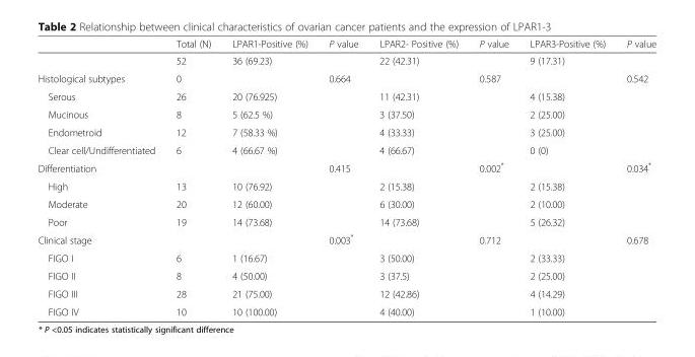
<table><thead><tr><td></td><td>Total (N)</td><td>LPAR1-Positive (%)</td><td>P value</td><td>LPAR2- Positive (%)</td><td>P value</td><td>LPAR3-Positive (%)</td><td>P value</td></tr></thead><tbody><tr><td></td><td>52</td><td>36 (69.23)</td><td></td><td>22 (42.31)</td><td></td><td>9 (17.31)</td><td></td></tr><tr><td>Histological subtypes</td><td>0</td><td></td><td>0.664</td><td></td><td>0.587</td><td></td><td>0.542</td></tr><tr><td>Serous</td><td>26</td><td>20 (76.925)</td><td></td><td>11 (42.31)</td><td></td><td>4 (15.38)</td><td></td></tr><tr><td>Mucinous</td><td>8</td><td>5 (62.5 %)</td><td></td><td>3 (37.50)</td><td></td><td>2 (25.00)</td><td></td></tr><tr><td>Endometroid</td><td>12</td><td>7 (58.33 %)</td><td></td><td>4 (33.33)</td><td></td><td>3 (25.00)</td><td></td></tr><tr><td>Clear cell/Undifferentiated</td><td>6</td><td>4 (66.67 %)</td><td></td><td>4 (66.67)</td><td></td><td>0 (0)</td><td></td></tr><tr><td>Differentiation</td><td></td><td></td><td>0.415</td><td></td><td>0.002*</td><td></td><td>0.034*</td></tr><tr><td>High</td><td>13</td><td>10 (76.92)</td><td></td><td>2 (15.38)</td><td></td><td>2 (15.38)</td><td></td></tr><tr><td>Moderate</td><td>20</td><td>12 (60.00)</td><td></td><td>6 (30.00)</td><td></td><td>2 (10.00)</td><td></td></tr><tr><td>Poor</td><td>19</td><td>14 (73.68)</td><td></td><td>14 (73.68)</td><td></td><td>5 (26.32)</td><td></td></tr><tr><td>Clinical stage</td><td></td><td></td><td>0.003*</td><td></td><td>0.712</td><td></td><td>0.678</td></tr><tr><td>FIGO I</td><td>6</td><td>1 (16.67)</td><td></td><td>3 (50.00)</td><td></td><td>2 (33.33)</td><td></td></tr><tr><td>FIGO II</td><td>8</td><td>4 (50.00)</td><td></td><td>3 (37.5)</td><td></td><td>2 (25.00)</td><td></td></tr><tr><td>FIGO III</td><td>28</td><td>21 (75.00)</td><td></td><td>12 (42.86)</td><td></td><td>4 (14.29)</td><td></td></tr><tr><td>FIGO IV</td><td>10</td><td>10 (100.00)</td><td></td><td>4 (40.00)</td><td></td><td>1 (10.00)</td><td></td></tr></tbody></table>